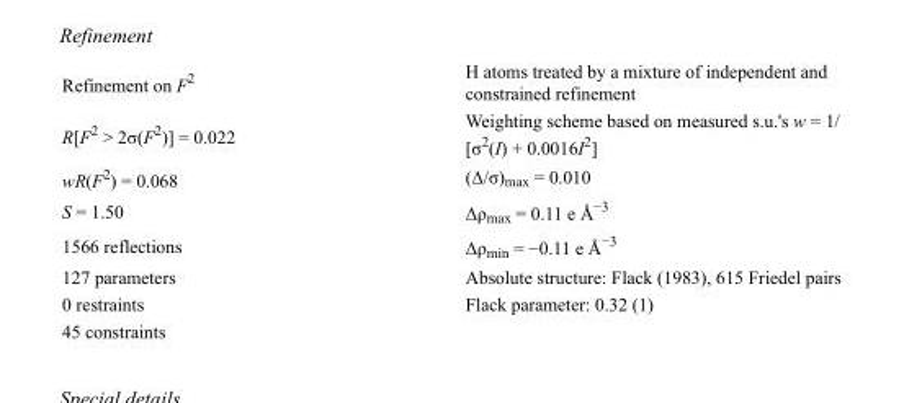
<table><tbody><tr><td>Refinement on F<sup>2</sup></td><td>H atoms treated by a mixture of independent and constrained refinement</td></tr><tr><td>R[F<sup>2</sup> &gt; 2σ(F<sup>2</sup>)] = 0.022</td><td>Weighting scheme based on measured s.u.&#x27;s w = 1/ [σ<sup>2</sup>(I) + 0.0016I<sup>2</sup>]</td></tr><tr><td>wR(F<sup>2</sup>) = 0.068</td><td>(Δ/σ)<sub>max</sub> = 0.010</td></tr><tr><td>S = 1.50</td><td>Δρ<sub>max</sub> = 0.11 e Å<sup>−3</sup></td></tr><tr><td>1566 reflections</td><td>Δρ<sub>min</sub> = −0.11 e Å<sup>−3</sup></td></tr><tr><td>127 parameters</td><td>Absolute structure: Flack (1983), 615 Friedel pairs</td></tr><tr><td>0 restraints</td><td>Flack parameter: 0.32 (1)</td></tr><tr><td>45 constraints</td><td></td></tr></tbody></table>